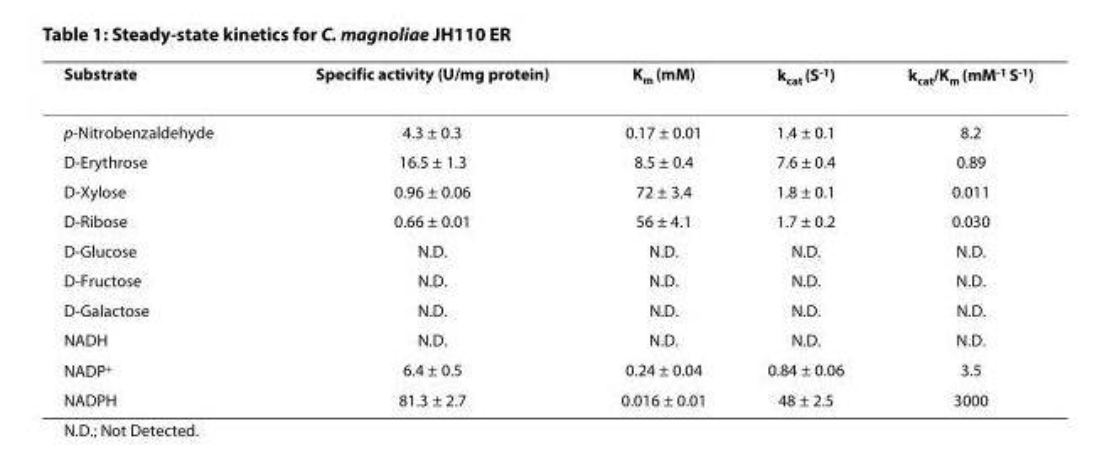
<table><thead><tr><td>Substrate</td><td>Specific activity (U/mg protein)</td><td>K<sub>m</sub> (mM)</td><td>k<sub>cat</sub> (S<sup>-1</sup>)</td><td>k<sub>cat</sub>/K<sub>m</sub> (mM<sup>-1</sup> S<sup>-1</sup>)</td></tr></thead><tbody><tr><td>p-Nitrobenzaldehyde</td><td>4.3 ± 0.3</td><td>0.17 ± 0.01</td><td>1.4 ± 0.1</td><td>8.2</td></tr><tr><td>D-Erythrose</td><td>16.5 ± 1.3</td><td>8.5 ± 0.4</td><td>7.6 ± 0.4</td><td>0.89</td></tr><tr><td>D-Xylose</td><td>0.96 ± 0.06</td><td>72 ± 3.4</td><td>1.8 ± 0.1</td><td>0.011</td></tr><tr><td>D-Ribose</td><td>0.66 ± 0.01</td><td>56 ± 4.1</td><td>1.7 ± 0.2</td><td>0.030</td></tr><tr><td>D-Glucose</td><td>N.D.</td><td>N.D.</td><td>N.D.</td><td>N.D.</td></tr><tr><td>D-Fructose</td><td>N.D.</td><td>N.D.</td><td>N.D.</td><td>N.D.</td></tr><tr><td>D-Galactose</td><td>N.D.</td><td>N.D.</td><td>N.D.</td><td>N.D.</td></tr><tr><td>NADH</td><td>N.D.</td><td>N.D.</td><td>N.D.</td><td>N.D.</td></tr><tr><td>NADP<sup>+</sup></td><td>6.4 ± 0.5</td><td>0.24 ± 0.04</td><td>0.84 ± 0.06</td><td>3.5</td></tr><tr><td>NADPH</td><td>81.3 ± 2.7</td><td>0.016 ± 0.01</td><td>48 ± 2.5</td><td>3000</td></tr></tbody></table>